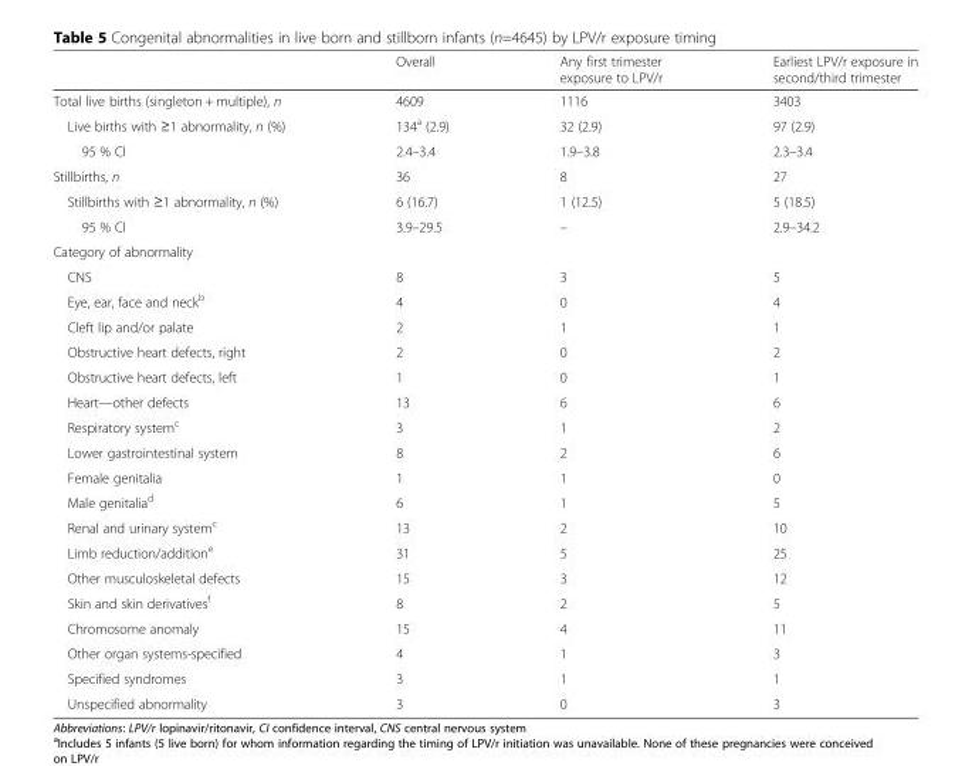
<table><thead><tr><td></td><td>Overall</td><td>Any first trimester exposure to LPV/r</td><td>Earliest LPV/r exposure in second/third trimester</td></tr></thead><tbody><tr><td>Total live births (singleton + multiple), n</td><td>4609</td><td>1116</td><td>3403</td></tr><tr><td>Live births with ≥1 abnormality, n (%)</td><td>134<sup>a</sup> (2.9)</td><td>32 (2.9)</td><td>97 (2.9)</td></tr><tr><td>95 % CI</td><td>2.4–3.4</td><td>1.9–3.8</td><td>2.3–3.4</td></tr><tr><td>Stillbirths, n</td><td>36</td><td>8</td><td>27</td></tr><tr><td>Stillbirths with ≥1 abnormality, n (%)</td><td>6 (16.7)</td><td>1 (12.5)</td><td>5 (18.5)</td></tr><tr><td>95 % CI</td><td>3.9–29.5</td><td>–</td><td>2.9–34.2</td></tr><tr><td colspan="4">Category of abnormality</td></tr><tr><td>CNS</td><td>8</td><td>3</td><td>5</td></tr><tr><td>Eye, ear, face and neckb</td><td>4</td><td>0</td><td>4</td></tr><tr><td>Cleft lip and/or palate</td><td>2</td><td>1</td><td>1</td></tr><tr><td>Obstructive heart defects, right</td><td>2</td><td>0</td><td>2</td></tr><tr><td>Obstructive heart defects, left</td><td>1</td><td>0</td><td>1</td></tr><tr><td>Heart—other defects</td><td>13</td><td>6</td><td>6</td></tr><tr><td>Respiratory systemc</td><td>3</td><td>1</td><td>2</td></tr><tr><td>Lower gastrointestinal system</td><td>8</td><td>2</td><td>6</td></tr><tr><td>Female genitalia</td><td>1</td><td>1</td><td>0</td></tr><tr><td>Male genitaliad</td><td>6</td><td>1</td><td>5</td></tr><tr><td>Renal and urinary systemc</td><td>13</td><td>2</td><td>10</td></tr><tr><td>Limb reduction/additione</td><td>31</td><td>5</td><td>25</td></tr><tr><td>Other musculoskeletal defects</td><td>15</td><td>3</td><td>12</td></tr><tr><td>Skin and skin derivativesf</td><td>8</td><td>2</td><td>5</td></tr><tr><td>Chromosome anomaly</td><td>15</td><td>4</td><td>11</td></tr><tr><td>Other organ systems-specified</td><td>4</td><td>1</td><td>3</td></tr><tr><td>Specified syndromes</td><td>3</td><td>1</td><td>1</td></tr><tr><td>Unspecified abnormality</td><td>3</td><td>0</td><td>3</td></tr></tbody></table>